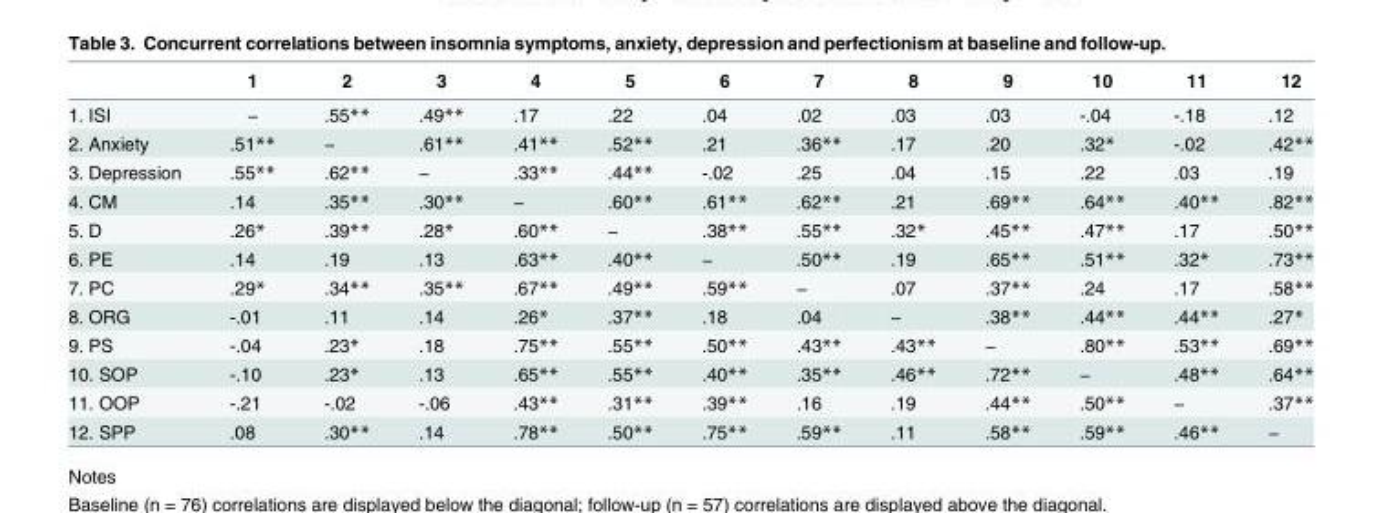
<table><thead><tr><td></td><td>1</td><td>2</td><td>3</td><td>4</td><td>5</td><td>6</td><td>7</td><td>8</td><td>9</td><td>10</td><td>11</td><td>12</td></tr></thead><tbody><tr><td>1. ISI</td><td>−</td><td>.55**</td><td>.49**</td><td>.17</td><td>.22</td><td>.04</td><td>.02</td><td>.03</td><td>.03</td><td>-.04</td><td>-.18</td><td>.12</td></tr><tr><td>2. Anxiety</td><td>.51**</td><td>−</td><td>.61**</td><td>.41**</td><td>.52**</td><td>.21</td><td>.36**</td><td>.17</td><td>.20</td><td>.32*</td><td>-.02</td><td>.42**</td></tr><tr><td>3. Depression</td><td>.55**</td><td>.62**</td><td>−</td><td>.33**</td><td>.44**</td><td>-.02</td><td>.25</td><td>.04</td><td>.15</td><td>.22</td><td>.03</td><td>.19</td></tr><tr><td>4. CM</td><td>.14</td><td>.35**</td><td>.30**</td><td>−</td><td>.60**</td><td>.61**</td><td>.62**</td><td>.21</td><td>.69**</td><td>.64**</td><td>.40**</td><td>.82**</td></tr><tr><td>5. D</td><td>.26*</td><td>.39**</td><td>.28*</td><td>.60**</td><td>−</td><td>.38**</td><td>.55**</td><td>.32*</td><td>.45**</td><td>.47**</td><td>.17</td><td>.50**</td></tr><tr><td>6. PE</td><td>.14</td><td>.19</td><td>.13</td><td>.63**</td><td>.40**</td><td>−</td><td>.50**</td><td>.19</td><td>.65**</td><td>.51**</td><td>.32*</td><td>.73**</td></tr><tr><td>7. PC</td><td>.29*</td><td>.34**</td><td>.35**</td><td>.67**</td><td>.49**</td><td>.59**</td><td>−</td><td>.07</td><td>.37**</td><td>.24</td><td>.17</td><td>.58**</td></tr><tr><td>8. ORG</td><td>-.01</td><td>.11</td><td>.14</td><td>.26*</td><td>.37**</td><td>.18</td><td>.04</td><td>−</td><td>.38**</td><td>.44**</td><td>.44**</td><td>.27*</td></tr><tr><td>9. PS</td><td>-.04</td><td>.23*</td><td>.18</td><td>.75**</td><td>.55**</td><td>.50**</td><td>.43**</td><td>.43**</td><td>−</td><td>.80**</td><td>.53**</td><td>.69**</td></tr><tr><td>10. SOP</td><td>-.10</td><td>.23*</td><td>.13</td><td>.65**</td><td>.55**</td><td>.40**</td><td>.35**</td><td>.46**</td><td>.72**</td><td>−</td><td>.48**</td><td>.64**</td></tr><tr><td>11. OOP</td><td>-.21</td><td>-.02</td><td>-.06</td><td>.43**</td><td>.31**</td><td>.39**</td><td>.16</td><td>.19</td><td>.44**</td><td>.50**</td><td>−</td><td>.37**</td></tr><tr><td>12. SPP</td><td>.08</td><td>.30**</td><td>.14</td><td>.78**</td><td>.50**</td><td>.75**</td><td>.59**</td><td>.11</td><td>.58**</td><td>.59**</td><td>.46**</td><td>−</td></tr></tbody></table>